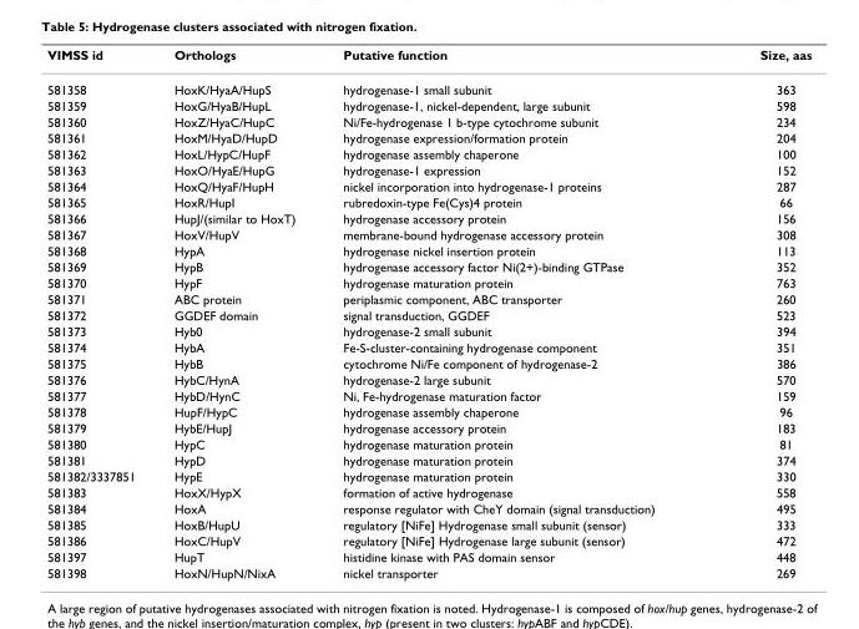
<table><thead><tr><td>VIMSS id</td><td>Orthologs</td><td>Putative function</td><td>Size, aas</td></tr></thead><tbody><tr><td>581358</td><td>HoxK/HyaA/HupS</td><td>hydrogenase-1 small subunit</td><td>363</td></tr><tr><td>581359</td><td>HoxG/HyaB/HupL</td><td>hydrogenase-1, nickel-dependent, large subunit</td><td>598</td></tr><tr><td>581360</td><td>HoxZ/HyaC/HupC</td><td>Ni/Fe-hydrogenase 1 b-type cytochrome subunit</td><td>234</td></tr><tr><td>581361</td><td>HoxM/HyaD/HupD</td><td>hydrogenase expression/formation protein</td><td>204</td></tr><tr><td>581362</td><td>HoxL/HypC/HupF</td><td>hydrogenase assembly chaperone</td><td>100</td></tr><tr><td>581363</td><td>HoxO/HyaE/HupG</td><td>hydrogenase-1 expression</td><td>152</td></tr><tr><td>581364</td><td>HoxQ/HyaF/HupH</td><td>nickel incorporation into hydrogenase-1 proteins</td><td>287</td></tr><tr><td>581365</td><td>HoxR/HupI</td><td>rubredoxin-type Fe(Cys)4 protein</td><td>66</td></tr><tr><td>581366</td><td>HupJ/(similar to HoxT)</td><td>hydrogenase accessory protein</td><td>156</td></tr><tr><td>581367</td><td>HoxV/HupV</td><td>membrane-bound hydrogenase accessory protein</td><td>308</td></tr><tr><td>581368</td><td>HypA</td><td>hydrogenase nickel insertion protein</td><td>113</td></tr><tr><td>581369</td><td>HypB</td><td>hydrogenase accessory factor Ni(2+)-binding GTPase</td><td>352</td></tr><tr><td>581370</td><td>HypF</td><td>hydrogenase maturation protein</td><td>763</td></tr><tr><td>581371</td><td>ABC protein</td><td>periplasmic component, ABC transporter</td><td>260</td></tr><tr><td>581372</td><td>GGDEF domain</td><td>signal transduction, GGDEF</td><td>523</td></tr><tr><td>581373</td><td>Hyb0</td><td>hydrogenase-2 small subunit</td><td>394</td></tr><tr><td>581374</td><td>HybA</td><td>Fe-S-cluster-containing hydrogenase component</td><td>351</td></tr><tr><td>581375</td><td>HybB</td><td>cytochrome Ni/Fe component of hydrogenase-2</td><td>386</td></tr><tr><td>581376</td><td>HybC/HynA</td><td>hydrogenase-2 large subunit</td><td>570</td></tr><tr><td>581377</td><td>HybD/HynC</td><td>Ni, Fe-hydrogenase maturation factor</td><td>159</td></tr><tr><td>581378</td><td>HupF/HypC</td><td>hydrogenase assembly chaperone</td><td>96</td></tr><tr><td>581379</td><td>HybE/HupJ</td><td>hydrogenase accessory protein</td><td>183</td></tr><tr><td>581380</td><td>HypC</td><td>hydrogenase maturation protein</td><td>81</td></tr><tr><td>581381</td><td>HypD</td><td>hydrogenase maturation protein</td><td>374</td></tr><tr><td>581382/3337851</td><td>HypE</td><td>hydrogenase maturation protein</td><td>330</td></tr><tr><td>581383</td><td>HoxX/HypX</td><td>formation of active hydrogenase</td><td>558</td></tr><tr><td>581384</td><td>HoxA</td><td>response regulator with CheY domain (signal transduction)</td><td>495</td></tr><tr><td>581385</td><td>HoxB/HupU</td><td>regulatory [NiFe] Hydrogenase small subunit (sensor)</td><td>333</td></tr><tr><td>581386</td><td>HoxC/HupV</td><td>regulatory [NiFe] Hydrogenase large subunit (sensor)</td><td>472</td></tr><tr><td>581397</td><td>HupT</td><td>histidine kinase with PAS domain sensor</td><td>448</td></tr><tr><td>581398</td><td>HoxN/HupN/NixA</td><td>nickel transporter</td><td>269</td></tr></tbody></table>